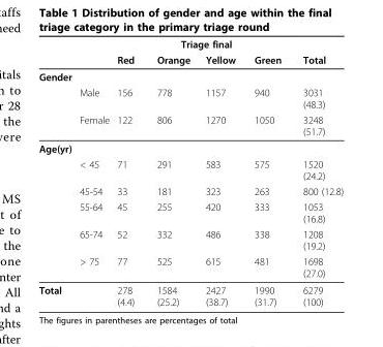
<table><thead><tr><td rowspan="2"></td><td rowspan="2"></td><td colspan="4">Triage final</td><td rowspan="2">Total</td></tr><tr><td>Red</td><td>Orange</td><td>Yellow</td><td>Green</td></tr></thead><tbody><tr><td colspan="7">Gender</td></tr><tr><td></td><td>Male</td><td>156</td><td>778</td><td>1157</td><td>940</td><td>3031 (48.3)</td></tr><tr><td></td><td>Female</td><td>122</td><td>806</td><td>1270</td><td>1050</td><td>3248 (51.7)</td></tr><tr><td colspan="7">Age(yr)</td></tr><tr><td></td><td>&lt; 45</td><td>71</td><td>291</td><td>583</td><td>575</td><td>1520 (24.2)</td></tr><tr><td></td><td>45-54</td><td>33</td><td>181</td><td>323</td><td>263</td><td>800 (12.8)</td></tr><tr><td></td><td>55-64</td><td>45</td><td>255</td><td>420</td><td>333</td><td>1053 (16.8)</td></tr><tr><td></td><td>65-74</td><td>52</td><td>332</td><td>486</td><td>338</td><td>1208 (19.2)</td></tr><tr><td></td><td>&gt; 75</td><td>77</td><td>525</td><td>615</td><td>481</td><td>1698 (27.0)</td></tr><tr><td>Total</td><td></td><td>278 (4.4)</td><td>1584 (25.2)</td><td>2427 (38.7)</td><td>1990 (31.7)</td><td>6279 (100)</td></tr></tbody></table>